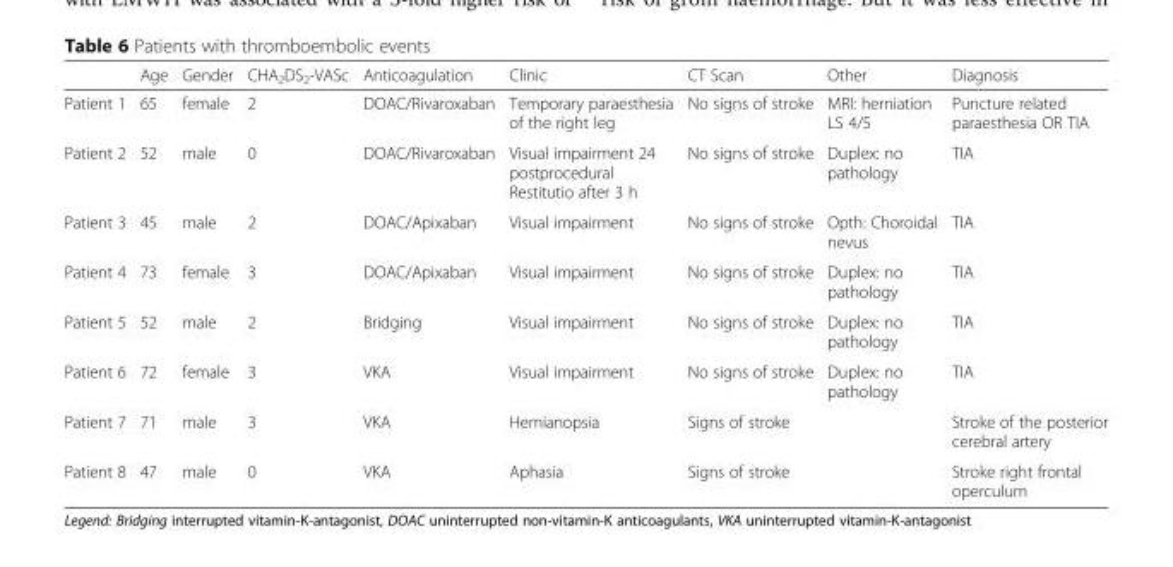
<table><thead><tr><td></td><td>Age</td><td>Gender</td><td>CHA<sub>2</sub>DS<sub>2</sub>-VASc</td><td>Anticoagulation</td><td>Clinic</td><td>CT Scan</td><td>Other</td><td>Diagnosis</td></tr></thead><tbody><tr><td>Patient 1</td><td>65</td><td>female</td><td>2</td><td>DOAC/Rivaroxaban</td><td>Temporary paraesthesia of the right leg</td><td>No signs of stroke</td><td>MRI: herniation LS 4/5</td><td>Puncture related paraesthesia OR TIA</td></tr><tr><td>Patient 2</td><td>52</td><td>male</td><td>0</td><td>DOAC/Rivaroxaban</td><td>Visual impairment 24 postprocedural Restitutio after 3 h</td><td>No signs of stroke</td><td>Duplex: no pathology</td><td>TIA</td></tr><tr><td>Patient 3</td><td>45</td><td>male</td><td>2</td><td>DOAC/Apixaban</td><td>Visual impairment</td><td>No signs of stroke</td><td>Opth: Choroidal nevus</td><td>TIA</td></tr><tr><td>Patient 4</td><td>73</td><td>female</td><td>3</td><td>DOAC/Apixaban</td><td>Visual impairment</td><td>No signs of stroke</td><td>Duplex: no pathology</td><td>TIA</td></tr><tr><td>Patient 5</td><td>52</td><td>male</td><td>2</td><td>Bridging</td><td>Visual impairment</td><td>No signs of stroke</td><td>Duplex: no pathology</td><td>TIA</td></tr><tr><td>Patient 6</td><td>72</td><td>female</td><td>3</td><td>VKA</td><td>Visual impairment</td><td>No signs of stroke</td><td>Duplex: no pathology</td><td>TIA</td></tr><tr><td>Patient 7</td><td>71</td><td>male</td><td>3</td><td>VKA</td><td>Hemianopsia</td><td>Signs of stroke</td><td></td><td>Stroke of the posterior cerebral artery</td></tr><tr><td>Patient 8</td><td>47</td><td>male</td><td>0</td><td>VKA</td><td>Aphasia</td><td>Signs of stroke</td><td></td><td>Stroke right frontal operculum</td></tr></tbody></table>